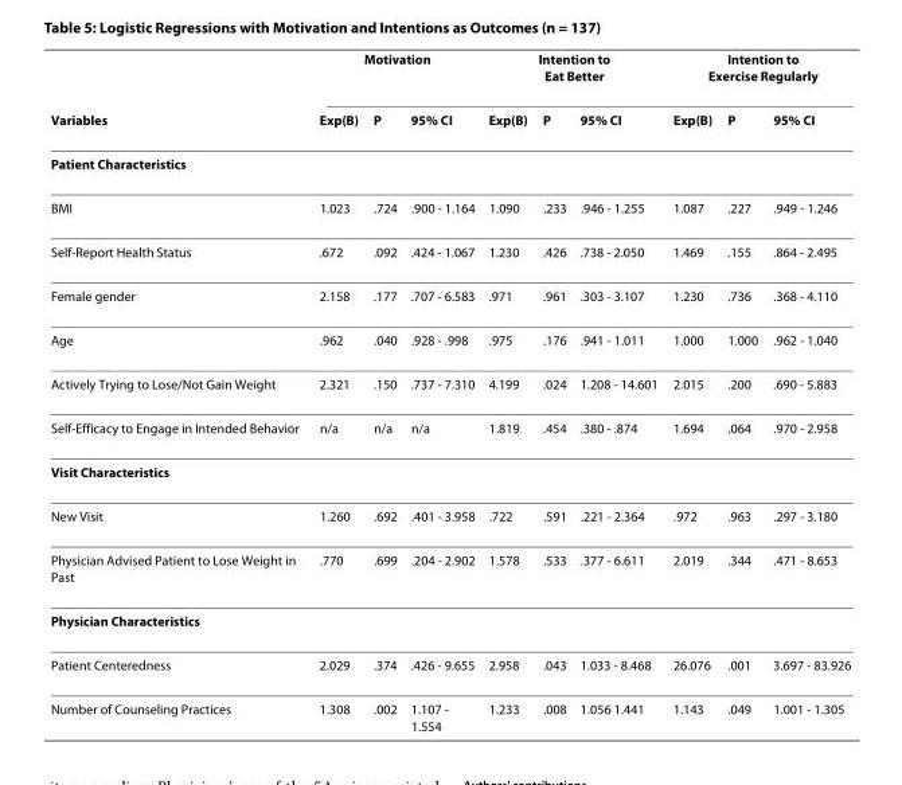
<table><thead><tr><td rowspan="2">Variables</td><td colspan="3">Motivation</td><td colspan="3">Intention to Eat Better</td><td colspan="3">Intention to Exercise Regularly</td></tr><tr><td>Exp(B)</td><td>P</td><td>95% CI</td><td>Exp(B)</td><td>P</td><td>95% CI</td><td>Exp(B)</td><td>P</td><td>95% CI</td></tr></thead><tbody><tr><td colspan="10">Patient Characteristics</td></tr><tr><td>BMI</td><td>1.023</td><td>.724</td><td>.900 - 1.164</td><td>1.090</td><td>.233</td><td>.946 - 1.255</td><td>1.087</td><td>.227</td><td>.949 - 1.246</td></tr><tr><td>Self-Report Health Status</td><td>.672</td><td>.092</td><td>.424 - 1.067</td><td>1.230</td><td>.426</td><td>.738 - 2.050</td><td>1.469</td><td>.155</td><td>.864 - 2.495</td></tr><tr><td>Female gender</td><td>2.158</td><td>.177</td><td>.707 - 6.583</td><td>.971</td><td>.961</td><td>.303 - 3.107</td><td>1.230</td><td>.736</td><td>.368 - 4.110</td></tr><tr><td>Age</td><td>.962</td><td>.040</td><td>.928 - .998</td><td>.975</td><td>.176</td><td>.941 - 1.011</td><td>1.000</td><td>1.000</td><td>.962 - 1.040</td></tr><tr><td>Actively Trying to Lose/Not Gain Weight</td><td>2.321</td><td>.150</td><td>.737 - 7.310</td><td>4.199</td><td>.024</td><td>1.208 - 14.601</td><td>2.015</td><td>.200</td><td>.690 - 5.883</td></tr><tr><td>Self-Efficacy to Engage in Intended Behavior</td><td>n/a</td><td>n/a</td><td>n/a</td><td>1.819</td><td>.454</td><td>.380 - .874</td><td>1.694</td><td>.064</td><td>.970 - 2.958</td></tr><tr><td colspan="10">Visit Characteristics</td></tr><tr><td>New Visit</td><td>1.260</td><td>.692</td><td>.401 - 3.958</td><td>.722</td><td>.591</td><td>.221 - 2.364</td><td>.972</td><td>.963</td><td>.297 - 3.180</td></tr><tr><td>Physician Advised Patient to Lose Weight in Past</td><td>.770</td><td>.699</td><td>.204 - 2.902</td><td>1.578</td><td>.533</td><td>.377 - 6.611</td><td>2.019</td><td>.344</td><td>.471 - 8.653</td></tr><tr><td colspan="10">Physician Characteristics</td></tr><tr><td>Patient Centeredness</td><td>2.029</td><td>.374</td><td>.426 - 9.655</td><td>2.958</td><td>.043</td><td>1.033 - 8.468</td><td>26.076</td><td>.001</td><td>3.697 - 83.926</td></tr><tr><td>Number of Counseling Practices</td><td>1.308</td><td>.002</td><td>1.107 - 1.554</td><td>1.233</td><td>.008</td><td>1.056 1.441</td><td>1.143</td><td>.049</td><td>1.001 - 1.305</td></tr></tbody></table>